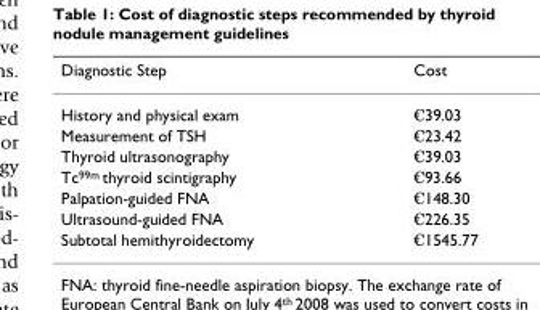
<table><thead><tr><td>Diagnostic Step</td><td>Cost</td></tr></thead><tbody><tr><td>History and physical exam</td><td>€39.03</td></tr><tr><td>Measurement of TSH</td><td>€23.42</td></tr><tr><td>Thyroid ultrasonography</td><td>€39.03</td></tr><tr><td>Tc<sup>99m</sup> thyroid scintigraphy</td><td>€93.66</td></tr><tr><td>Palpation-guided FNA</td><td>€148.30</td></tr><tr><td>Ultrasound-guided FNA</td><td>€226.35</td></tr><tr><td>Subtotal hemithyroidectomy</td><td>€1545.77</td></tr></tbody></table>